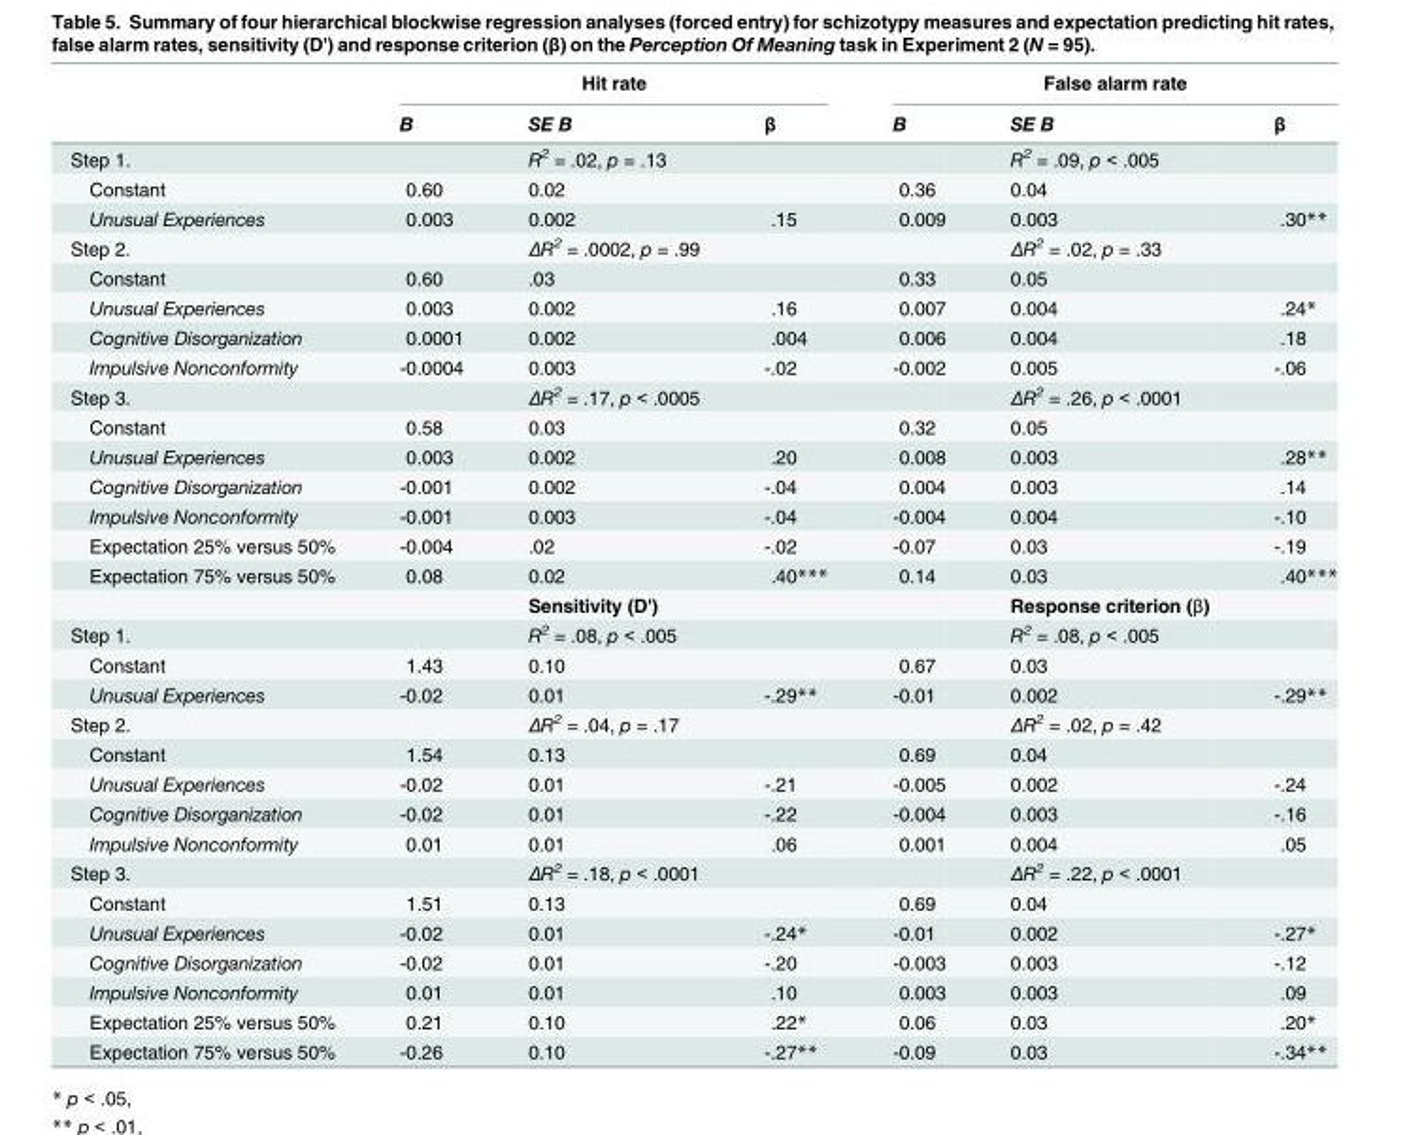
<table><thead><tr><td rowspan="2"></td><td colspan="3">Hit rate</td><td colspan="3">False alarm rate</td></tr><tr><td>B</td><td>SE B</td><td>β</td><td>B</td><td>SE B</td><td>β</td></tr></thead><tbody><tr><td>Step 1.</td><td></td><td>R<sup>2</sup> = .02, p = .13</td><td></td><td></td><td>R<sup>2</sup> = .09, p &lt; .005</td><td></td></tr><tr><td>Constant</td><td>0.60</td><td>0.02</td><td></td><td>0.36</td><td>0.04</td><td></td></tr><tr><td>Unusual Experiences</td><td>0.003</td><td>0.002</td><td>.15</td><td>0.009</td><td>0.003</td><td>.30**</td></tr><tr><td>Step 2.</td><td></td><td>ΔR<sup>2</sup> = .0002, p = .99</td><td></td><td></td><td>ΔR<sup>2</sup> = .02, p = .33</td><td></td></tr><tr><td>Constant</td><td>0.60</td><td>.03</td><td></td><td>0.33</td><td>0.05</td><td></td></tr><tr><td>Unusual Experiences</td><td>0.003</td><td>0.002</td><td>.16</td><td>0.007</td><td>0.004</td><td>.24*</td></tr><tr><td>Cognitive Disorganization</td><td>0.0001</td><td>0.002</td><td>.004</td><td>0.006</td><td>0.004</td><td>.18</td></tr><tr><td>Impulsive Nonconformity</td><td>-0.0004</td><td>0.003</td><td>-.02</td><td>-0.002</td><td>0.005</td><td>-.06</td></tr><tr><td>Step 3.</td><td></td><td>ΔR<sup>2</sup> = .17, p &lt; .0005</td><td></td><td></td><td>ΔR<sup>2</sup> = .26, p &lt; .0001</td><td></td></tr><tr><td>Constant</td><td>0.58</td><td>0.03</td><td></td><td>0.32</td><td>0.05</td><td></td></tr><tr><td>Unusual Experiences</td><td>0.003</td><td>0.002</td><td>.20</td><td>0.008</td><td>0.003</td><td>.28**</td></tr><tr><td>Cognitive Disorganization</td><td>-0.001</td><td>0.002</td><td>-.04</td><td>0.004</td><td>0.003</td><td>.14</td></tr><tr><td>Impulsive Nonconformity</td><td>-0.001</td><td>0.003</td><td>-.04</td><td>-0.004</td><td>0.004</td><td>-.10</td></tr><tr><td>Expectation 25% versus 50%</td><td>-0.004</td><td>.02</td><td>-.02</td><td>-0.07</td><td>0.03</td><td>-.19</td></tr><tr><td rowspan="2">Expectation 75% versus 50%</td><td>0.08</td><td>0.02</td><td>.40***</td><td>0.14</td><td>0.03</td><td>.40***</td></tr><tr><td></td><td>Sensitivity (D&#x27;)</td><td></td><td></td><td>Response criterion (β)</td><td></td></tr><tr><td>Step 1.</td><td></td><td>R<sup>2</sup> = .08, p &lt; .005</td><td></td><td></td><td>R<sup>2</sup> = .08, p &lt; .005</td><td></td></tr><tr><td>Constant</td><td>1.43</td><td>0.10</td><td></td><td>0.67</td><td>0.03</td><td></td></tr><tr><td>Unusual Experiences</td><td>-0.02</td><td>0.01</td><td>-.29**</td><td>-0.01</td><td>0.002</td><td>-.29**</td></tr><tr><td>Step 2.</td><td></td><td>ΔR<sup>2</sup> = .04, p = .17</td><td></td><td></td><td>ΔR<sup>2</sup> = .02, p = .42</td><td></td></tr><tr><td>Constant</td><td>1.54</td><td>0.13</td><td></td><td>0.69</td><td>0.04</td><td></td></tr><tr><td>Unusual Experiences</td><td>-0.02</td><td>0.01</td><td>-.21</td><td>-0.005</td><td>0.002</td><td>-.24</td></tr><tr><td>Cognitive Disorganization</td><td>-0.02</td><td>0.01</td><td>-.22</td><td>-0.004</td><td>0.003</td><td>-.16</td></tr><tr><td>Impulsive Nonconformity</td><td>0.01</td><td>0.01</td><td>.06</td><td>0.001</td><td>0.004</td><td>.05</td></tr><tr><td>Step 3.</td><td></td><td>ΔR<sup>2</sup> = .18, p &lt; .0001</td><td></td><td></td><td>ΔR<sup>2</sup> = .22, p &lt; .0001</td><td></td></tr><tr><td>Constant</td><td>1.51</td><td>0.13</td><td></td><td>0.69</td><td>0.04</td><td></td></tr><tr><td>Unusual Experiences</td><td>-0.02</td><td>0.01</td><td>-.24*</td><td>-0.01</td><td>0.002</td><td>-.27*</td></tr><tr><td>Cognitive Disorganization</td><td>-0.02</td><td>0.01</td><td>-.20</td><td>-0.003</td><td>0.003</td><td>-.12</td></tr><tr><td>Impulsive Nonconformity</td><td>0.01</td><td>0.01</td><td>.10</td><td>0.003</td><td>0.003</td><td>.09</td></tr><tr><td>Expectation 25% versus 50%</td><td>0.21</td><td>0.10</td><td>.22*</td><td>0.06</td><td>0.03</td><td>.20*</td></tr><tr><td>Expectation 75% versus 50%</td><td>-0.26</td><td>0.10</td><td>-.27**</td><td>-0.09</td><td>0.03</td><td>-.34**</td></tr></tbody></table>